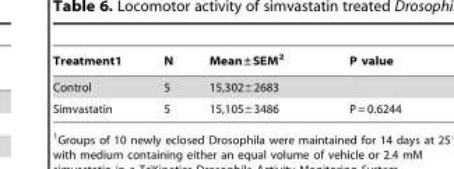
<table><thead><tr><td>Treatment1</td><td>N</td><td>Mean±SEM<sup>2</sup></td><td>P value</td></tr></thead><tbody><tr><td>Control</td><td>5</td><td>15,302±2683</td><td></td></tr><tr><td>Simvastatin</td><td>5</td><td>15,105±3486</td><td>P = 0.6244</td></tr></tbody></table>